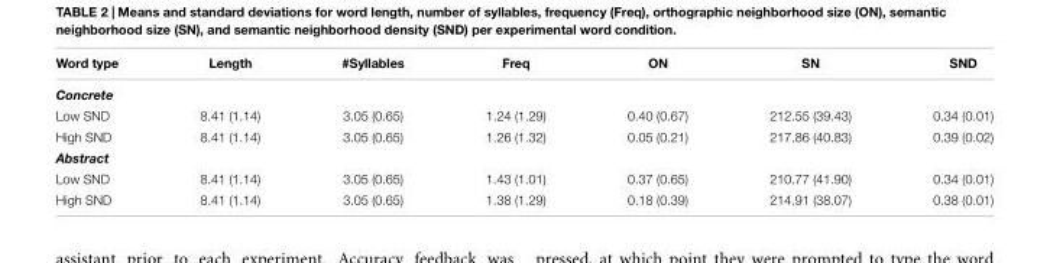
<table><thead><tr><td>Word type</td><td>Length</td><td>#Syllables</td><td>Freq</td><td>ON</td><td>SN</td><td>SND</td></tr></thead><tbody><tr><td colspan="7">Concrete</td></tr><tr><td>Low SND</td><td>8.41 (1.14)</td><td>3.05 (0.65)</td><td>1.24 (1.29)</td><td>0.40 (0.67)</td><td>212.55 (39.43)</td><td>0.34 (0.01)</td></tr><tr><td>High SND</td><td>8.41 (1.14)</td><td>3.05 (0.65)</td><td>1.26 (1.32)</td><td>0.05 (0.21)</td><td>217.86 (40.83)</td><td>0.39 (0.02)</td></tr><tr><td colspan="7">Abstract</td></tr><tr><td>Low SND</td><td>8.41 (1.14)</td><td>3.05 (0.65)</td><td>1.43 (1.01)</td><td>0.37 (0.65)</td><td>210.77 (41.90)</td><td>0.34 (0.01)</td></tr><tr><td>High SND</td><td>8.41 (1.14)</td><td>3.05 (0.65)</td><td>1.38 (1.29)</td><td>0.18 (0.39)</td><td>214.91 (38.07)</td><td>0.38 (0.01)</td></tr></tbody></table>